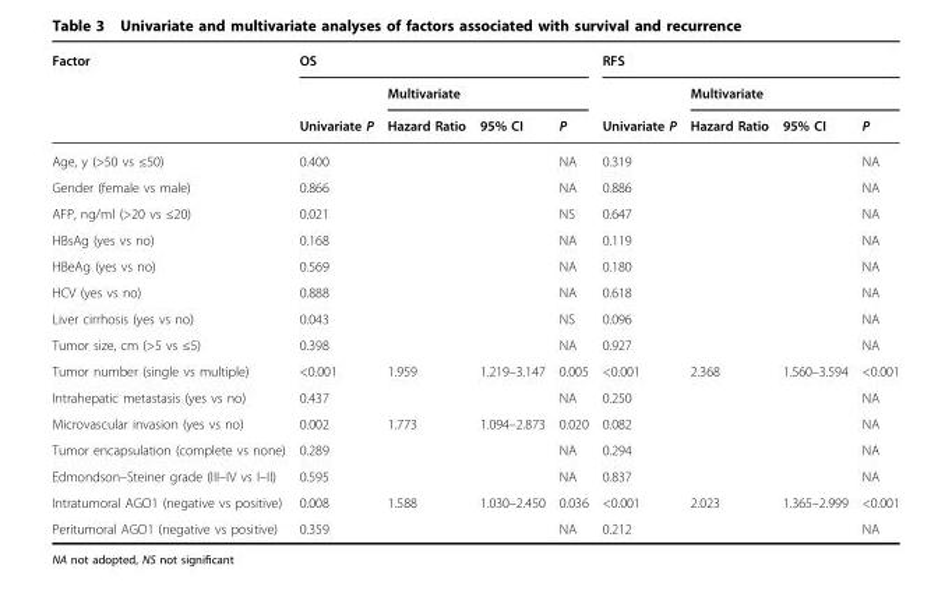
<table><thead><tr><td rowspan="3">Factor</td><td colspan="4">OS</td><td colspan="4">RFS</td></tr><tr><td rowspan="2">Univariate P</td><td colspan="3">Multivariate</td><td rowspan="2">Univariate P</td><td colspan="3">Multivariate</td></tr><tr><td>Hazard Ratio</td><td>95% CI</td><td>P</td><td>Hazard Ratio</td><td>95% CI</td><td>P</td></tr></thead><tbody><tr><td>Age, y (&gt;50 vs ≤50)</td><td>0.400</td><td></td><td></td><td>NA</td><td>0.319</td><td></td><td></td><td>NA</td></tr><tr><td>Gender (female vs male)</td><td>0.866</td><td></td><td></td><td>NA</td><td>0.886</td><td></td><td></td><td>NA</td></tr><tr><td>AFP, ng/ml (&gt;20 vs ≤20)</td><td>0.021</td><td></td><td></td><td>NS</td><td>0.647</td><td></td><td></td><td>NA</td></tr><tr><td>HBsAg (yes vs no)</td><td>0.168</td><td></td><td></td><td>NA</td><td>0.119</td><td></td><td></td><td>NA</td></tr><tr><td>HBeAg (yes vs no)</td><td>0.569</td><td></td><td></td><td>NA</td><td>0.180</td><td></td><td></td><td>NA</td></tr><tr><td>HCV (yes vs no)</td><td>0.888</td><td></td><td></td><td>NA</td><td>0.618</td><td></td><td></td><td>NA</td></tr><tr><td>Liver cirrhosis (yes vs no)</td><td>0.043</td><td></td><td></td><td>NS</td><td>0.096</td><td></td><td></td><td>NA</td></tr><tr><td>Tumor size, cm (&gt;5 vs ≤5)</td><td>0.398</td><td></td><td></td><td>NA</td><td>0.927</td><td></td><td></td><td>NA</td></tr><tr><td>Tumor number (single vs multiple)</td><td>&lt;0.001</td><td>1.959</td><td>1.219–3.147</td><td>0.005</td><td>&lt;0.001</td><td>2.368</td><td>1.560–3.594</td><td>&lt;0.001</td></tr><tr><td>Intrahepatic metastasis (yes vs no)</td><td>0.437</td><td></td><td></td><td>NA</td><td>0.250</td><td></td><td></td><td>NA</td></tr><tr><td>Microvascular invasion (yes vs no)</td><td>0.002</td><td>1.773</td><td>1.094–2.873</td><td>0.020</td><td>0.082</td><td></td><td></td><td>NA</td></tr><tr><td>Tumor encapsulation (complete vs none)</td><td>0.289</td><td></td><td></td><td>NA</td><td>0.294</td><td></td><td></td><td>NA</td></tr><tr><td>Edmondson–Steiner grade (III–IV vs I–II)</td><td>0.595</td><td></td><td></td><td>NA</td><td>0.837</td><td></td><td></td><td>NA</td></tr><tr><td>Intratumoral AGO1 (negative vs positive)</td><td>0.008</td><td>1.588</td><td>1.030–2.450</td><td>0.036</td><td>&lt;0.001</td><td>2.023</td><td>1.365–2.999</td><td>&lt;0.001</td></tr><tr><td>Peritumoral AGO1 (negative vs positive)</td><td>0.359</td><td></td><td></td><td>NA</td><td>0.212</td><td></td><td></td><td>NA</td></tr></tbody></table>